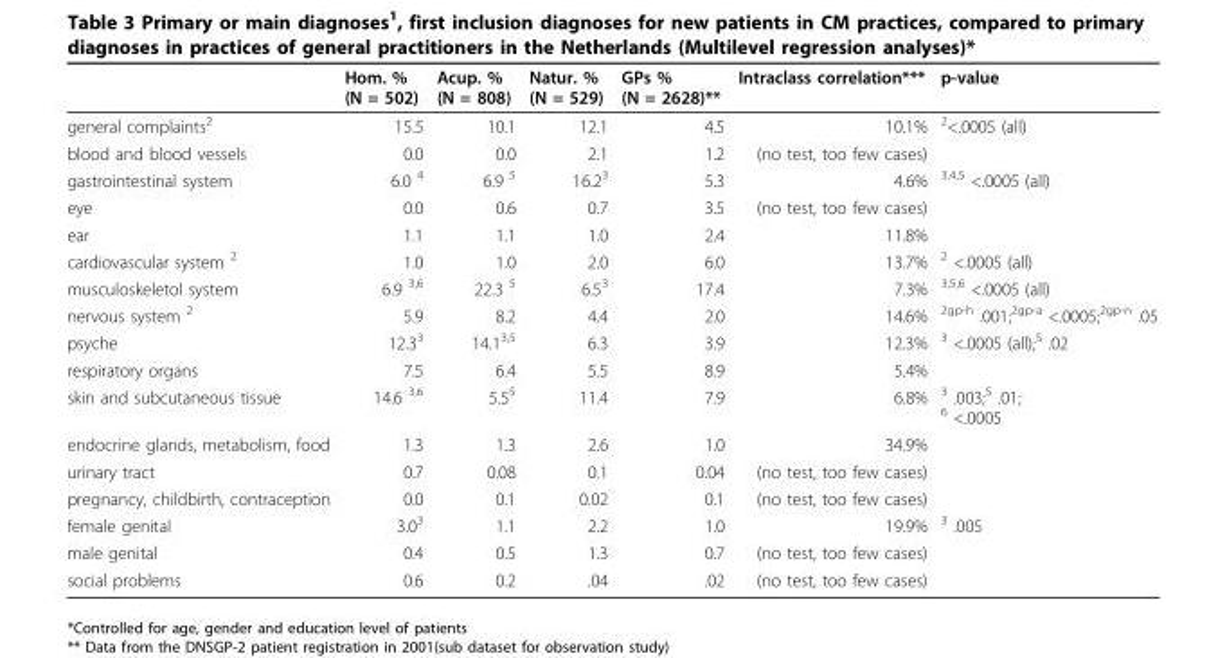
<table><thead><tr><td></td><td>Hom. % (N = 502)</td><td>Acup. % (N = 808)</td><td>Natur. % (N = 529)</td><td>GPs % (N = 2628)**</td><td>Intraclass correlation***</td><td>p-value</td></tr></thead><tbody><tr><td>general complaints<sup>2</sup></td><td>15.5</td><td>10.1</td><td>12.1</td><td>4.5</td><td>10.1%</td><td><sup>2</sup>&lt;.0005 (all)</td></tr><tr><td>blood and blood vessels</td><td>0.0</td><td>0.0</td><td>2.1</td><td>1.2</td><td>(no test, too few cases)</td><td></td></tr><tr><td>gastrointestinal system</td><td>6.0 <sup>4</sup></td><td>6.9 <sup>5</sup></td><td>16.2<sup>3</sup></td><td>5.3</td><td>4.6%</td><td><sup>3,4,5</sup> &lt;.0005 (all)</td></tr><tr><td>eye</td><td>0.0</td><td>0.6</td><td>0.7</td><td>3.5</td><td>(no test, too few cases)</td><td></td></tr><tr><td>ear</td><td>1.1</td><td>1.1</td><td>1.0</td><td>2.4</td><td>11.8%</td><td></td></tr><tr><td>cardiovascular system <sup>2</sup></td><td>1.0</td><td>1.0</td><td>2.0</td><td>6.0</td><td>13.7%</td><td><sup>2</sup> &lt;.0005 (all)</td></tr><tr><td>musculoskeletol system</td><td>6.9 <sup>3,6</sup></td><td>22.3 <sup>5</sup></td><td>6.5<sup>3</sup></td><td>17.4</td><td>7.3%</td><td><sup>3,5,6</sup> &lt;.0005 (all)</td></tr><tr><td>nervous system <sup>2</sup></td><td>5.9</td><td>8.2</td><td>4.4</td><td>2.0</td><td>14.6%</td><td><sup>2gp-h</sup> .001;<sup>2gp-a</sup> &lt;.0005;<sup>2gp-n</sup> .05</td></tr><tr><td>psyche</td><td>12.3<sup>3</sup></td><td>14.1<sup>3,5</sup></td><td>6.3</td><td>3.9</td><td>12.3%</td><td><sup>3</sup> &lt;.0005 (all);<sup>5</sup> .02</td></tr><tr><td>respiratory organs</td><td>7.5</td><td>6.4</td><td>5.5</td><td>8.9</td><td>5.4%</td><td></td></tr><tr><td>skin and subcutaneous tissue</td><td>14.6 <sup>3,6</sup></td><td>5.5<sup>5</sup></td><td>11.4</td><td>7.9</td><td>6.8%</td><td><sup>3</sup> .003;<sup>5</sup> .01; <sup>6</sup> &lt;.0005</td></tr><tr><td>endocrine glands, metabolism, food</td><td>1.3</td><td>1.3</td><td>2.6</td><td>1.0</td><td>34.9%</td><td></td></tr><tr><td>urinary tract</td><td>0.7</td><td>0.08</td><td>0.1</td><td>0.04</td><td>(no test, too few cases)</td><td></td></tr><tr><td>pregnancy, childbirth, contraception</td><td>0.0</td><td>0.1</td><td>0.02</td><td>0.1</td><td>(no test, too few cases)</td><td></td></tr><tr><td>female genital</td><td>3.0<sup>3</sup></td><td>1.1</td><td>2.2</td><td>1.0</td><td>19.9%</td><td><sup>3</sup> .005</td></tr><tr><td>male genital</td><td>0.4</td><td>0.5</td><td>1.3</td><td>0.7</td><td>(no test, too few cases)</td><td></td></tr><tr><td>social problems</td><td>0.6</td><td>0.2</td><td>.04</td><td>.02</td><td>(no test, too few cases)</td><td></td></tr></tbody></table>